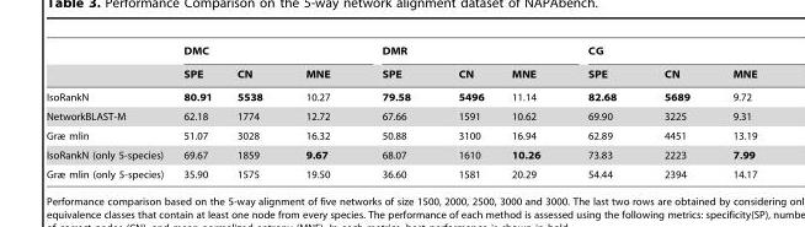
<table><thead><tr><td rowspan="2"></td><td colspan="3">DMC</td><td colspan="3">DMR</td><td colspan="3">CG</td></tr><tr><td>SPE</td><td>CN</td><td>MNE</td><td>SPE</td><td>CN</td><td>MNE</td><td>SPE</td><td>CN</td><td>MNE</td></tr></thead><tbody><tr><td>IsoRankN</td><td>80.91</td><td>5538</td><td>10.27</td><td>79.58</td><td>5496</td><td>11.14</td><td>82.68</td><td>5689</td><td>9.72</td></tr><tr><td>NetworkBLAST-M</td><td>62.18</td><td>1774</td><td>12.72</td><td>67.66</td><td>1591</td><td>10.62</td><td>69.90</td><td>3225</td><td>9.31</td></tr><tr><td>Græ mlin</td><td>51.07</td><td>3028</td><td>16.32</td><td>50.88</td><td>3100</td><td>16.94</td><td>62.89</td><td>4451</td><td>13.19</td></tr><tr><td>IsoRankN (only 5-species)</td><td>69.67</td><td>1859</td><td>9.67</td><td>68.07</td><td>1610</td><td>10.26</td><td>73.83</td><td>2223</td><td>7.99</td></tr><tr><td>Græ mlin (only 5-species)</td><td>35.90</td><td>1575</td><td>19.50</td><td>36.60</td><td>1581</td><td>20.29</td><td>54.44</td><td>2394</td><td>14.17</td></tr></tbody></table>